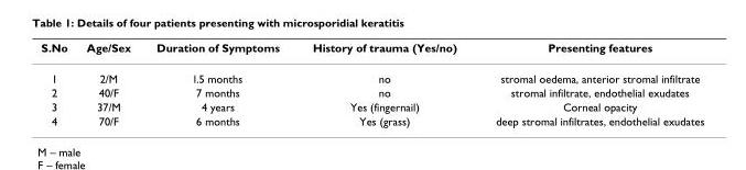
<table><thead><tr><td>S.No</td><td>Age/Sex</td><td>Duration of Symptoms</td><td>History of trauma (Yes/no)</td><td>Presenting features</td></tr></thead><tbody><tr><td>1</td><td>2/M</td><td>l.5 months</td><td>no</td><td>stromal oedema, anterior stromal infiltrate</td></tr><tr><td>2</td><td>40/F</td><td>7 months</td><td>no</td><td>stromal infiltrate, endothelial exudates</td></tr><tr><td>3</td><td>37/M</td><td>4 years</td><td>Yes (fingernail)</td><td>Corneal opacity</td></tr><tr><td>4</td><td>70/F</td><td>6 months</td><td>Yes (grass)</td><td>deep stromal infiltrates, endothelial exudates</td></tr></tbody></table>